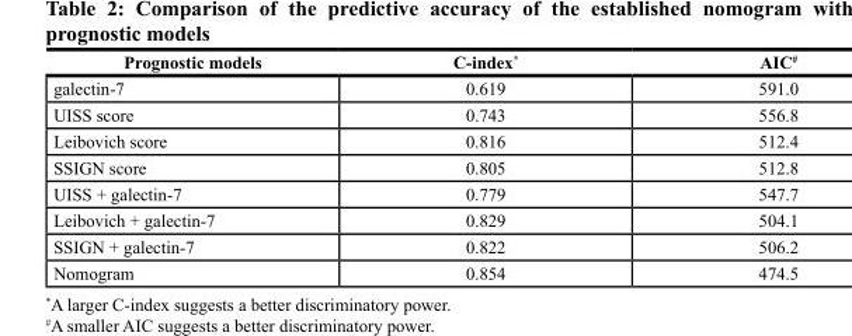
<table><thead><tr><td>Prognostic models</td><td>c-index*</td><td>AIc#</td></tr></thead><tbody><tr><td>galectin-7</td><td>0.619</td><td>591.0</td></tr><tr><td>UISS score</td><td>0.743</td><td>556.8</td></tr><tr><td>Leibovich score</td><td>0.816</td><td>512.4</td></tr><tr><td>SSIGN score</td><td>0.805</td><td>512.8</td></tr><tr><td>UISS + galectin-7</td><td>0.779</td><td>547.7</td></tr><tr><td>Leibovich + galectin-7</td><td>0.829</td><td>504.1</td></tr><tr><td>SSIGN + galectin-7</td><td>0.822</td><td>506.2</td></tr><tr><td>Nomogram</td><td>0.854</td><td>474.5</td></tr></tbody></table>